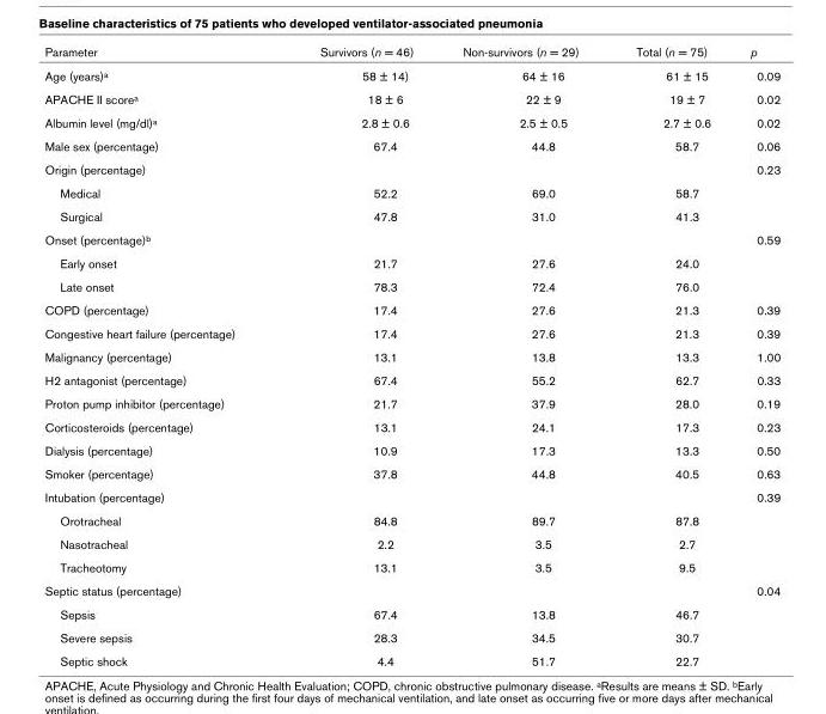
<table><thead><tr><td>Parameter</td><td>Survivors (n = 46)</td><td>Non-survivors (n = 29)</td><td>Total (n = 75)</td><td>p</td></tr></thead><tbody><tr><td>Age (years)a</td><td>58 ± 14)</td><td>64 ± 16</td><td>61 ± 15</td><td>0.09</td></tr><tr><td>APACHE II scorea</td><td>18 ± 6</td><td>22 ± 9</td><td>19 ± 7</td><td>0.02</td></tr><tr><td>Albumin level (mg/dl)a</td><td>2.8 ± 0.6</td><td>2.5 ± 0.5</td><td>2.7 ± 0.6</td><td>0.02</td></tr><tr><td>Male sex (percentage)</td><td>67.4</td><td>44.8</td><td>58.7</td><td>0.06</td></tr><tr><td>Origin (percentage)</td><td></td><td></td><td></td><td>0.23</td></tr><tr><td>Medical</td><td>52.2</td><td>69.0</td><td>58.7</td><td></td></tr><tr><td>Surgical</td><td>47.8</td><td>31.0</td><td>41.3</td><td></td></tr><tr><td>Onset (percentage)b</td><td></td><td></td><td></td><td>0.59</td></tr><tr><td>Early onset</td><td>21.7</td><td>27.6</td><td>24.0</td><td></td></tr><tr><td>Late onset</td><td>78.3</td><td>72.4</td><td>76.0</td><td></td></tr><tr><td>COPD (percentage)</td><td>17.4</td><td>27.6</td><td>21.3</td><td>0.39</td></tr><tr><td>Congestive heart failure (percentage)</td><td>17.4</td><td>27.6</td><td>21.3</td><td>0.39</td></tr><tr><td>Malignancy (percentage)</td><td>13.1</td><td>13.8</td><td>13.3</td><td>1.00</td></tr><tr><td>H2 antagonist (percentage)</td><td>67.4</td><td>55.2</td><td>62.7</td><td>0.33</td></tr><tr><td>Proton pump inhibitor (percentage)</td><td>21.7</td><td>37.9</td><td>28.0</td><td>0.19</td></tr><tr><td>Corticosteroids (percentage)</td><td>13.1</td><td>24.1</td><td>17.3</td><td>0.23</td></tr><tr><td>Dialysis (percentage)</td><td>10.9</td><td>17.3</td><td>13.3</td><td>0.50</td></tr><tr><td>Smoker (percentage)</td><td>37.8</td><td>44.8</td><td>40.5</td><td>0.63</td></tr><tr><td>Intubation (percentage)</td><td></td><td></td><td></td><td>0.39</td></tr><tr><td>Orotracheal</td><td>84.8</td><td>89.7</td><td>87.8</td><td></td></tr><tr><td>Nasotracheal</td><td>2.2</td><td>3.5</td><td>2.7</td><td></td></tr><tr><td>Tracheotomy</td><td>13.1</td><td>3.5</td><td>9.5</td><td></td></tr><tr><td>Septic status (percentage)</td><td></td><td></td><td></td><td>0.04</td></tr><tr><td>Sepsis</td><td>67.4</td><td>13.8</td><td>46.7</td><td></td></tr><tr><td>Severe sepsis</td><td>28.3</td><td>34.5</td><td>30.7</td><td></td></tr><tr><td>Septic shock</td><td>4.4</td><td>51.7</td><td>22.7</td><td></td></tr></tbody></table>